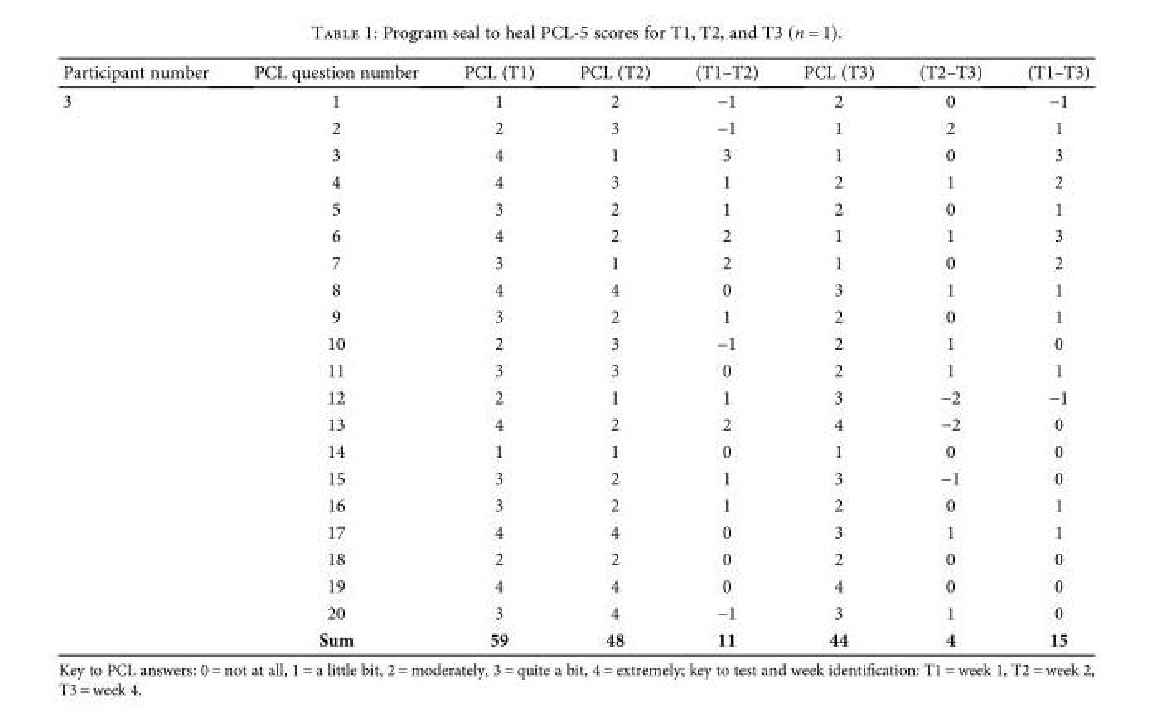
<table><thead><tr><td>Participant number</td><td>PCL question number</td><td>PCL (T1)</td><td>PCL (T2)</td><td>(T1–T2)</td><td>PCL (T3)</td><td>(T2–T3)</td><td>(T1–T3)</td></tr></thead><tbody><tr><td rowspan="21">3</td><td>1</td><td>1</td><td>2</td><td>−1</td><td>2</td><td>0</td><td>−1</td></tr><tr><td>2</td><td>2</td><td>3</td><td>−1</td><td>1</td><td>2</td><td>1</td></tr><tr><td>3</td><td>4</td><td>1</td><td>3</td><td>1</td><td>0</td><td>3</td></tr><tr><td>4</td><td>4</td><td>3</td><td>1</td><td>2</td><td>1</td><td>2</td></tr><tr><td>5</td><td>3</td><td>2</td><td>1</td><td>2</td><td>0</td><td>1</td></tr><tr><td>6</td><td>4</td><td>2</td><td>2</td><td>1</td><td>1</td><td>3</td></tr><tr><td>7</td><td>3</td><td>1</td><td>2</td><td>1</td><td>0</td><td>2</td></tr><tr><td>8</td><td>4</td><td>4</td><td>0</td><td>3</td><td>1</td><td>1</td></tr><tr><td>9</td><td>3</td><td>2</td><td>1</td><td>2</td><td>0</td><td>1</td></tr><tr><td>10</td><td>2</td><td>3</td><td>−1</td><td>2</td><td>1</td><td>0</td></tr><tr><td>11</td><td>3</td><td>3</td><td>0</td><td>2</td><td>1</td><td>1</td></tr><tr><td>12</td><td>2</td><td>1</td><td>1</td><td>3</td><td>−2</td><td>−1</td></tr><tr><td>13</td><td>4</td><td>2</td><td>2</td><td>4</td><td>−2</td><td>0</td></tr><tr><td>14</td><td>1</td><td>1</td><td>0</td><td>1</td><td>0</td><td>0</td></tr><tr><td>15</td><td>3</td><td>2</td><td>1</td><td>3</td><td>−1</td><td>0</td></tr><tr><td>16</td><td>3</td><td>2</td><td>1</td><td>2</td><td>0</td><td>1</td></tr><tr><td>17</td><td>4</td><td>4</td><td>0</td><td>3</td><td>1</td><td>1</td></tr><tr><td>18</td><td>2</td><td>2</td><td>0</td><td>2</td><td>0</td><td>0</td></tr><tr><td>19</td><td>4</td><td>4</td><td>0</td><td>4</td><td>0</td><td>0</td></tr><tr><td>20</td><td>3</td><td>4</td><td>−1</td><td>3</td><td>1</td><td>0</td></tr><tr><td>Sum</td><td>59</td><td>48</td><td>11</td><td>44</td><td>4</td><td>15</td></tr></tbody></table>